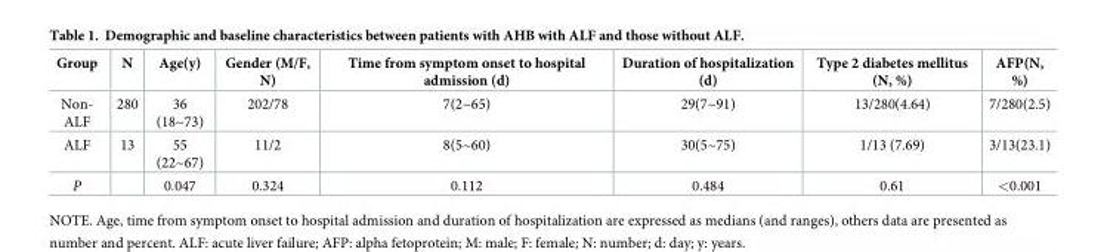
<table><thead><tr><td>Group</td><td>N</td><td>Age(y)</td><td>Gender (M/F, N)</td><td>Time from symptom onset to hospital admission (d)</td><td>Duration of hospitalization (d)</td><td>Type 2 diabetes mellitus (N, %)</td><td>AFP(N, %)</td></tr></thead><tbody><tr><td>Non- ALF</td><td>280</td><td>36 (18~73)</td><td>202/78</td><td>7(2~65)</td><td>29(7~91)</td><td>13/280(4.64)</td><td>7/280(2.5)</td></tr><tr><td>ALF</td><td>13</td><td>55 (22~67)</td><td>11/2</td><td>8(5~60)</td><td>30(5~75)</td><td>1/13 (7.69)</td><td>3/13(23.1)</td></tr><tr><td>P</td><td></td><td>0.047</td><td>0.324</td><td>0.112</td><td>0.484</td><td>0.61</td><td>&lt;0.001</td></tr></tbody></table>